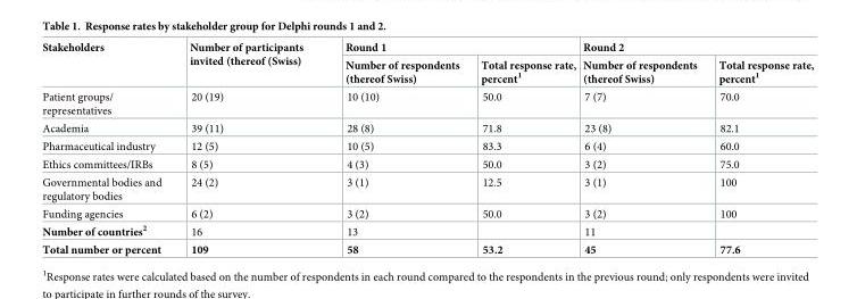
<table><thead><tr><td rowspan="2">Stakeholders</td><td rowspan="2">Number of participants invited (thereof (Swiss)</td><td colspan="2">Round 1</td><td colspan="2">Round 2</td></tr><tr><td>Number of respondents (thereof Swiss)</td><td>Total response rate, percent<sup>1</sup></td><td>Number of respondents (thereof Swiss)</td><td>Total response rate, percent<sup>1</sup></td></tr></thead><tbody><tr><td>Patient groups/ representatives</td><td>20 (19)</td><td>10 (10)</td><td>50.0</td><td>7 (7)</td><td>70.0</td></tr><tr><td>Academia</td><td>39 (11)</td><td>28 (8)</td><td>71.8</td><td>23 (8)</td><td>82.1</td></tr><tr><td>Pharmaceutical industry</td><td>12 (5)</td><td>10 (5)</td><td>83.3</td><td>6 (4)</td><td>60.0</td></tr><tr><td>Ethics committees/IRBs</td><td>8 (5)</td><td>4 (3)</td><td>50.0</td><td>3 (2)</td><td>75.0</td></tr><tr><td>Governmental bodies and regulatory bodies</td><td>24 (2)</td><td>3 (1)</td><td>12.5</td><td>3 (1)</td><td>100</td></tr><tr><td>Funding agencies</td><td>6 (2)</td><td>3 (2)</td><td>50.0</td><td>3 (2)</td><td>100</td></tr><tr><td>Number of countries<sup>2</sup></td><td>16</td><td>13</td><td></td><td>11</td><td></td></tr><tr><td>Total number or percent</td><td>109</td><td>58</td><td>53.2</td><td>45</td><td>77.6</td></tr></tbody></table>